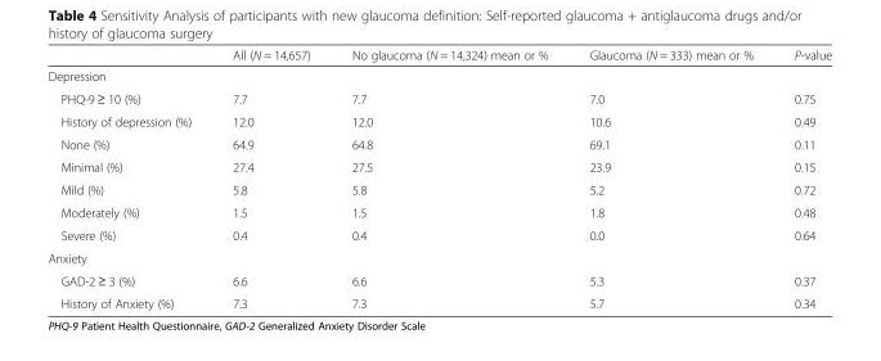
<table><thead><tr><td></td><td>All (N = 14,657)</td><td>No glaucoma (N = 14,324) mean or %</td><td>Glaucoma (N = 333) mean or %</td><td>P-value</td></tr></thead><tbody><tr><td colspan="5">Depression</td></tr><tr><td>PHQ-9 ≥ 10 (%)</td><td>7.7</td><td>7.7</td><td>7.0</td><td>0.75</td></tr><tr><td>History of depression (%)</td><td>12.0</td><td>12.0</td><td>10.6</td><td>0.49</td></tr><tr><td>None (%)</td><td>64.9</td><td>64.8</td><td>69.1</td><td>0.11</td></tr><tr><td>Minimal (%)</td><td>27.4</td><td>27.5</td><td>23.9</td><td>0.15</td></tr><tr><td>Mild (%)</td><td>5.8</td><td>5.8</td><td>5.2</td><td>0.72</td></tr><tr><td>Moderately (%)</td><td>1.5</td><td>1.5</td><td>1.8</td><td>0.48</td></tr><tr><td>Severe (%)</td><td>0.4</td><td>0.4</td><td>0.0</td><td>0.64</td></tr><tr><td colspan="5">Anxiety</td></tr><tr><td>GAD-2 ≥ 3 (%)</td><td>6.6</td><td>6.6</td><td>5.3</td><td>0.37</td></tr><tr><td>History of Anxiety (%)</td><td>7.3</td><td>7.3</td><td>5.7</td><td>0.34</td></tr></tbody></table>